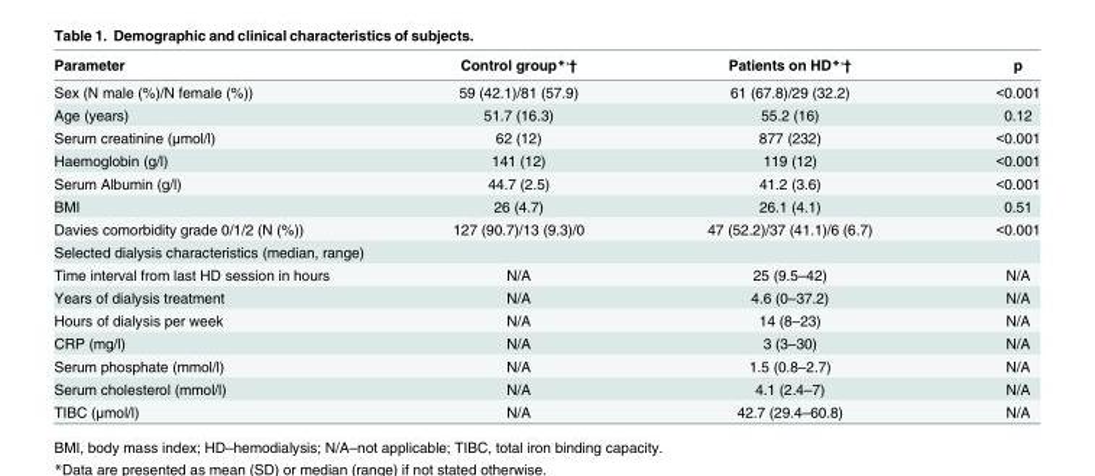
<table><thead><tr><td>Parameter</td><td>Control group*<sup>,</sup>†</td><td>Patients on HD*<sup>,</sup>†</td><td>p</td></tr></thead><tbody><tr><td>Sex (N male (%)/N female (%))</td><td>59 (42.1)/81 (57.9)</td><td>61 (67.8)/29 (32.2)</td><td>&lt;0.001</td></tr><tr><td>Age (years)</td><td>51.7 (16.3)</td><td>55.2 (16)</td><td>0.12</td></tr><tr><td>Serum creatinine (μmol/l)</td><td>62 (12)</td><td>877 (232)</td><td>&lt;0.001</td></tr><tr><td>Haemoglobin (g/l)</td><td>141 (12)</td><td>119 (12)</td><td>&lt;0.001</td></tr><tr><td>Serum Albumin (g/l)</td><td>44.7 (2.5)</td><td>41.2 (3.6)</td><td>&lt;0.001</td></tr><tr><td>BMI</td><td>26 (4.7)</td><td>26.1 (4.1)</td><td>0.51</td></tr><tr><td>Davies comorbidity grade 0/1/2 (N (%))</td><td>127 (90.7)/13 (9.3)/0</td><td>47 (52.2)/37 (41.1)/6 (6.7)</td><td>&lt;0.001</td></tr><tr><td colspan="4">Selected dialysis characteristics (median, range)</td></tr><tr><td>Time interval from last HD session in hours</td><td>N/A</td><td>25 (9.5–42)</td><td>N/A</td></tr><tr><td>Years of dialysis treatment</td><td>N/A</td><td>4.6 (0–37.2)</td><td>N/A</td></tr><tr><td>Hours of dialysis per week</td><td>N/A</td><td>14 (8–23)</td><td>N/A</td></tr><tr><td>CRP (mg/l)</td><td>N/A</td><td>3 (3–30)</td><td>N/A</td></tr><tr><td>Serum phosphate (mmol/l)</td><td>N/A</td><td>1.5 (0.8–2.7)</td><td>N/A</td></tr><tr><td>Serum cholesterol (mmol/l)</td><td>N/A</td><td>4.1 (2.4–7)</td><td>N/A</td></tr><tr><td>TIBC (μmol/l)</td><td>N/A</td><td>42.7 (29.4–60.8)</td><td>N/A</td></tr></tbody></table>